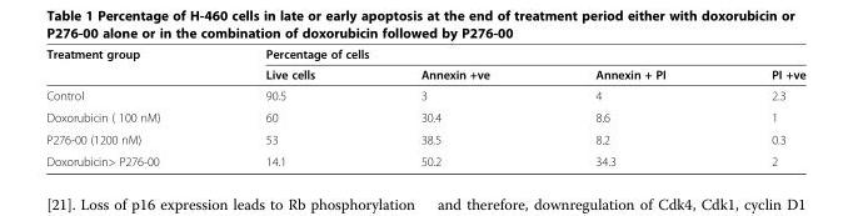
<table><thead><tr><td rowspan="2">Treatment group</td><td colspan="4">Percentage of cells</td></tr><tr><td>Live cells</td><td>Annexin +ve</td><td>Annexin + PI</td><td>PI +ve</td></tr></thead><tbody><tr><td>Control</td><td>90.5</td><td>3</td><td>4</td><td>2.3</td></tr><tr><td>Doxorubicin ( 100 nM)</td><td>60</td><td>30.4</td><td>8.6</td><td>1</td></tr><tr><td>P276-00 (1200 nM)</td><td>53</td><td>38.5</td><td>8.2</td><td>0.3</td></tr><tr><td>Doxorubicin&gt; P276-00</td><td>14.1</td><td>50.2</td><td>34.3</td><td>2</td></tr></tbody></table>